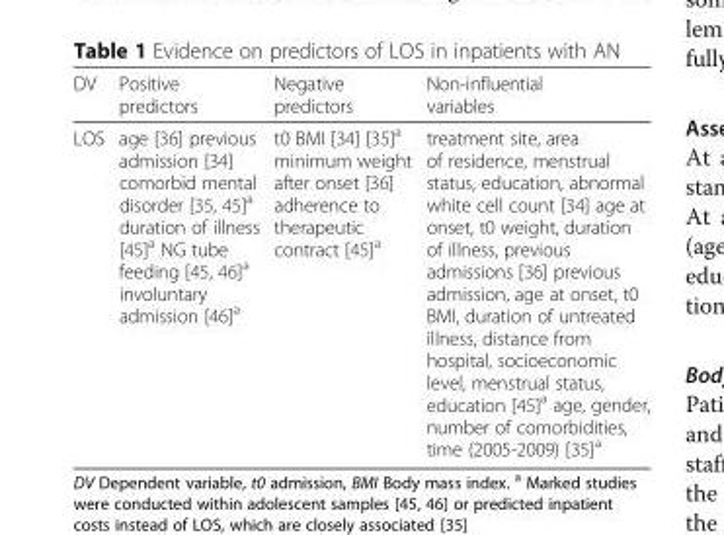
<table><thead><tr><td>DV</td><td>Positive predictors</td><td>Negative predictors</td><td>Non-influential variables</td></tr></thead><tbody><tr><td>LOS</td><td>age [36] previous admission [34] comorbid mental disorder [35, 45]<sup>a</sup> duration of illness [45]<sup>a</sup> NG tube feeding [45, 46]<sup>a</sup> involuntary admission [46]<sup>a</sup></td><td>t0 BMI [34] [35]<sup>a</sup> minimum weight after onset [36] adherence to therapeutic contract [45]<sup>a</sup></td><td>treatment site, area of residence, menstrual status, education, abnormal white cell count [34] age at onset, t0 weight, duration of illness, previous admissions [36] previous admission, age at onset, t0 BMI, duration of untreated illness, distance from hospital, socioeconomic level, menstrual status, education [45]<sup>a</sup> age, gender, number of comorbidities, time (2005-2009) [35]<sup>a</sup></td></tr></tbody></table>